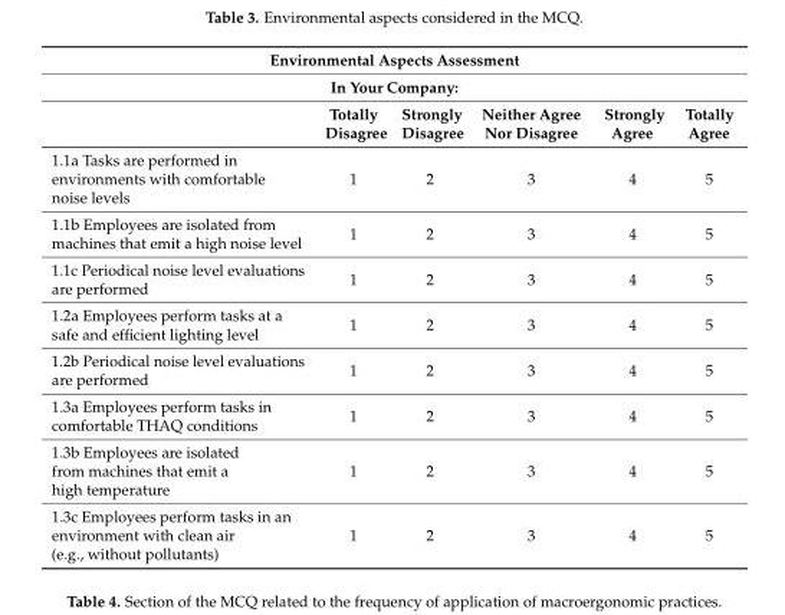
<table><thead><tr><td rowspan="2" colspan="6">Environmental Aspects Assessment In Your Company:</td></tr><tr></tr><tr><td></td><td>Totally Disagree</td><td>Strongly Disagree</td><td>Neither Agree Nor Disagree</td><td>Strongly Agree</td><td>Totally Agree</td></tr></thead><tbody><tr><td>1.1a Tasks are performed in environments with comfortable noise levels</td><td>1</td><td>2</td><td>3</td><td>4</td><td>5</td></tr><tr><td>1.1b Employees are isolated from machines that emit a high noise level</td><td>1</td><td>2</td><td>3</td><td>4</td><td>5</td></tr><tr><td>1.1c Periodical noise level evaluations are performed</td><td>1</td><td>2</td><td>3</td><td>4</td><td>5</td></tr><tr><td>1.2a Employees perform tasks at a safe and efficient lighting level</td><td>1</td><td>2</td><td>3</td><td>4</td><td>5</td></tr><tr><td>1.2b Periodical noise level evaluations are performed</td><td>1</td><td>2</td><td>3</td><td>4</td><td>5</td></tr><tr><td>1.3a Employees perform tasks in comfortable THAQ conditions</td><td>1</td><td>2</td><td>3</td><td>4</td><td>5</td></tr><tr><td>1.3b Employees are isolated from machines that emit a high temperature</td><td>1</td><td>2</td><td>3</td><td>4</td><td>5</td></tr><tr><td>1.3c Employees perform tasks in an environment with clean air (e.g., without pollutants)</td><td>1</td><td>2</td><td>3</td><td>4</td><td>5</td></tr></tbody></table>